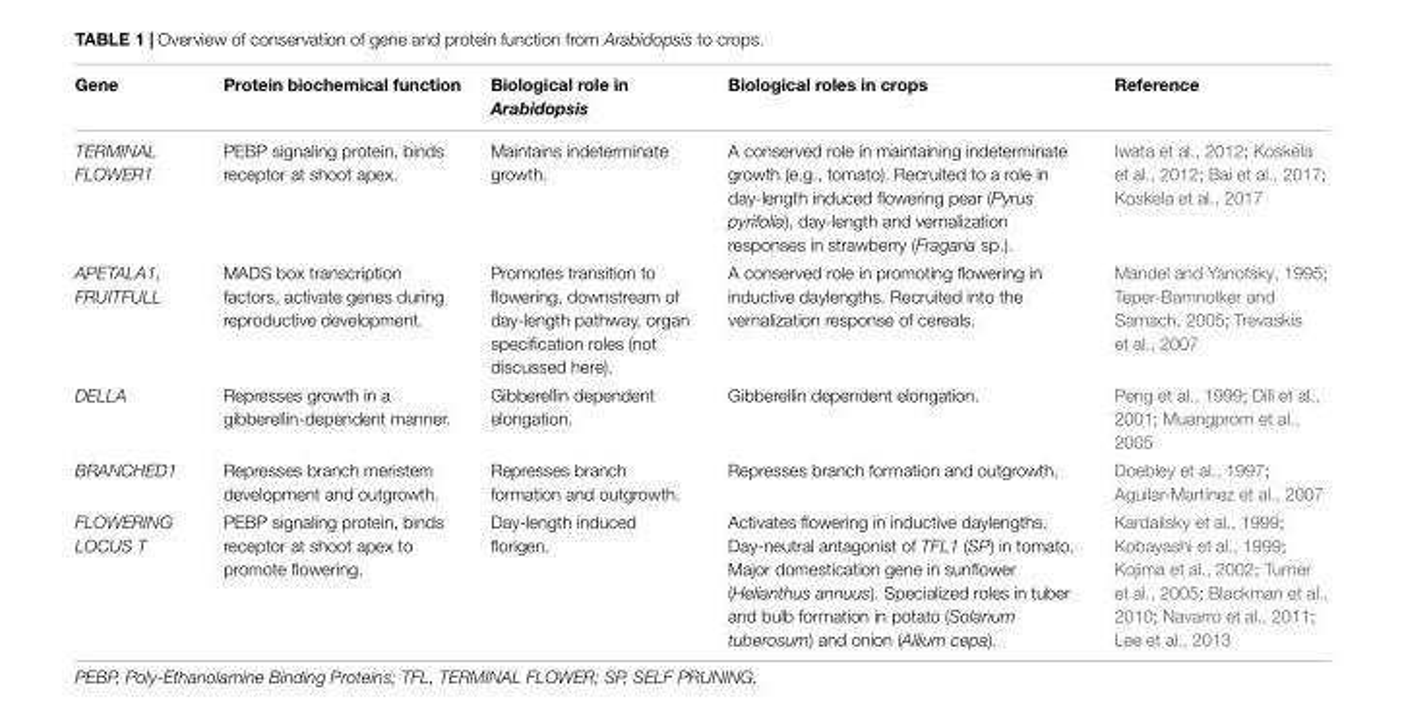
<table><thead><tr><td>Gene</td><td>Protein biochemical function</td><td>Biological role in Arabidopsis</td><td>Biological roles in crops</td><td>Reference</td></tr></thead><tbody><tr><td>TERMINAL FLOWER1</td><td>PEBP signaling protein, binds receptor at shoot apex.</td><td>Maintains indeterminate growth.</td><td>A conserved role in maintaining indeterminate growth (e.g., tomato). Recruited to a role in day-length induced flowering pear (Pyrus pyrifolia), day-length and vernalization responses in strawberry (Fragaria sp.).</td><td>Iwata et al., 2012; Koskela et al., 2012; Bai et al., 2017; Koskela et al., 2017</td></tr><tr><td>APETALA1, FRUITFULL</td><td>MADS box transcription factors, activate genes during reproductive development.</td><td>Promotes transition to flowering, downstream of day-length pathway, organ specification roles (not discussed here).</td><td>A conserved role in promoting flowering in inductive daylengths. Recruited into the vernalization response of cereals.</td><td>Mandel and Yanofsky, 1995; Teper-Bamnolker and Samach, 2005; Trevaskis et al., 2007</td></tr><tr><td>DELLA</td><td>Represses growth in a gibberellin-dependent manner.</td><td>Gibberellin dependent elongation.</td><td>Gibberellin dependent elongation.</td><td>Peng et al., 1999; Dill et al., 2001; Muangprom et al., 2005</td></tr><tr><td>BRANCHED1</td><td>Represses branch meristem development and outgrowth.</td><td>Represses branch formation and outgrowth.</td><td>Represses branch formation and outgrowth.</td><td>Doebley et al., 1997; Aguilar-Martínez et al., 2007</td></tr><tr><td>FLOWERING LOCUS T</td><td>PEBP signaling protein, binds receptor at shoot apex to promote flowering.</td><td>Day-length induced florigen.</td><td>Activates flowering in inductive daylengths. Day-neutral antagonist of TFL1 (SP) in tomato. Major domestication gene in sunflower (Helianthus annuus). Specialized roles in tuber and bulb formation in potato (Solanum tuberosum) and onion (Allium cepa).</td><td>Kardailsky et al., 1999; Kobayashi et al., 1999; Kojima et al., 2002; Turner et al., 2005; Blackman et al., 2010; Navarro et al., 2011; Lee et al., 2013</td></tr></tbody></table>